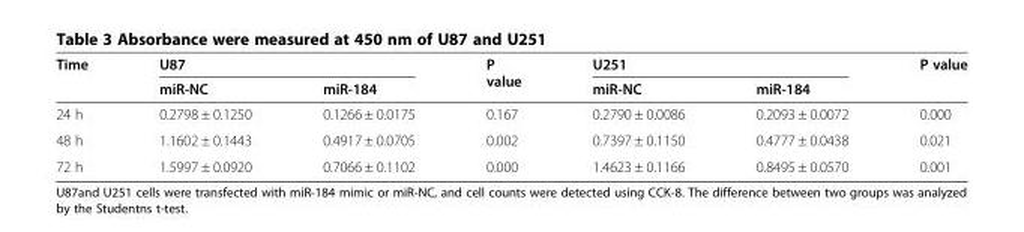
<table><thead><tr><td rowspan="2">Time</td><td colspan="2">U87</td><td rowspan="2">P value</td><td colspan="2">U251</td><td rowspan="2">P value</td></tr><tr><td>miR-NC</td><td>miR-184</td><td>miR-NC</td><td>miR-184</td></tr></thead><tbody><tr><td>24 h</td><td>0.2798 ± 0.1250</td><td>0.1266 ± 0.0175</td><td>0.167</td><td>0.2790 ± 0.0086</td><td>0.2093 ± 0.0072</td><td>0.000</td></tr><tr><td>48 h</td><td>1.1602 ± 0.1443</td><td>0.4917 ± 0.0705</td><td>0.002</td><td>0.7397 ± 0.1150</td><td>0.4777 ± 0.0438</td><td>0.021</td></tr><tr><td>72 h</td><td>1.5997 ± 0.0920</td><td>0.7066 ± 0.1102</td><td>0.000</td><td>1.4623 ± 0.1166</td><td>0.8495 ± 0.0570</td><td>0.001</td></tr></tbody></table>